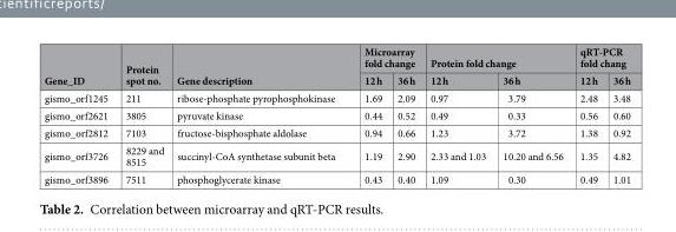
<table><thead><tr><td rowspan="2">Gene_ID</td><td rowspan="2">Protein spot no.</td><td rowspan="2">Gene description</td><td colspan="2">Microarray fold change</td><td colspan="2">Protein fold change</td><td colspan="2">qRT-PCR fold chang</td></tr><tr><td>12 h</td><td>36 h</td><td>12 h</td><td>36 h</td><td>12 h</td><td>36 h</td></tr></thead><tbody><tr><td>gismo_orf1245</td><td>211</td><td>ribose-phosphate pyrophosphokinase</td><td>1.69</td><td>2.09</td><td>0.97</td><td>3.79</td><td>2.48</td><td>3.48</td></tr><tr><td>gismo_orf2621</td><td>3805</td><td>pyruvate kinase</td><td>0.44</td><td>0.52</td><td>0.49</td><td>0.33</td><td>0.56</td><td>0.60</td></tr><tr><td>gismo_orf2812</td><td>7103</td><td>fructose-bisphosphate aldolase</td><td>0.94</td><td>0.66</td><td>1.23</td><td>3.72</td><td>1.38</td><td>0.92</td></tr><tr><td>gismo_orf3726</td><td>8229 and 8515</td><td>succinyl-CoA synthetase subunit beta</td><td>1.19</td><td>2.90</td><td>2.33 and 1.03</td><td>10.20 and 6.56</td><td>1.35</td><td>4.82</td></tr><tr><td>gismo_orf3896</td><td>7511</td><td>phosphoglycerate kinase</td><td>0.43</td><td>0.40</td><td>1.09</td><td>0.30</td><td>0.49</td><td>1.01</td></tr></tbody></table>